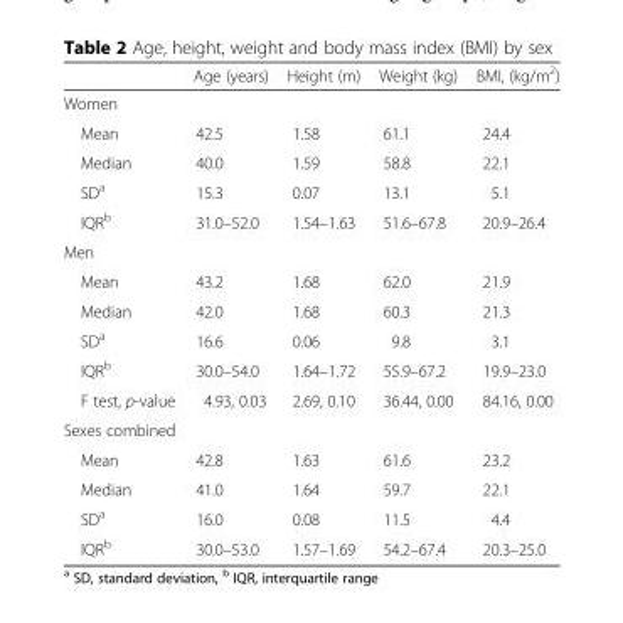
<table><thead><tr><td></td><td>Age (years)</td><td>Height (m)</td><td>Weight (kg)</td><td>BMI, (kg/m<sup>2</sup>)</td></tr></thead><tbody><tr><td colspan="5">Women</td></tr><tr><td>Mean</td><td>42.5</td><td>1.58</td><td>61.1</td><td>24.4</td></tr><tr><td>Median</td><td>40.0</td><td>1.59</td><td>58.8</td><td>22.1</td></tr><tr><td>SD<sup>a</sup></td><td>15.3</td><td>0.07</td><td>13.1</td><td>5.1</td></tr><tr><td>IQR<sup>b</sup></td><td>31.0–52.0</td><td>1.54–1.63</td><td>51.6–67.8</td><td>20.9–26.4</td></tr><tr><td colspan="5">Men</td></tr><tr><td>Mean</td><td>43.2</td><td>1.68</td><td>62.0</td><td>21.9</td></tr><tr><td>Median</td><td>42.0</td><td>1.68</td><td>60.3</td><td>21.3</td></tr><tr><td>SD<sup>a</sup></td><td>16.6</td><td>0.06</td><td>9.8</td><td>3.1</td></tr><tr><td>IQR<sup>b</sup></td><td>30.0–54.0</td><td>1.64–1.72</td><td>55.9–67.2</td><td>19.9–23.0</td></tr><tr><td>F test, p-value</td><td>4.93, 0.03</td><td>2.69, 0.10</td><td>36.44, 0.00</td><td>84.16, 0.00</td></tr><tr><td colspan="5">Sexes combined</td></tr><tr><td>Mean</td><td>42.8</td><td>1.63</td><td>61.6</td><td>23.2</td></tr><tr><td>Median</td><td>41.0</td><td>1.64</td><td>59.7</td><td>22.1</td></tr><tr><td>SD<sup>a</sup></td><td>16.0</td><td>0.08</td><td>11.5</td><td>4.4</td></tr><tr><td>IQR<sup>b</sup></td><td>30.0–53.0</td><td>1.57–1.69</td><td>54.2–67.4</td><td>20.3–25.0</td></tr></tbody></table>